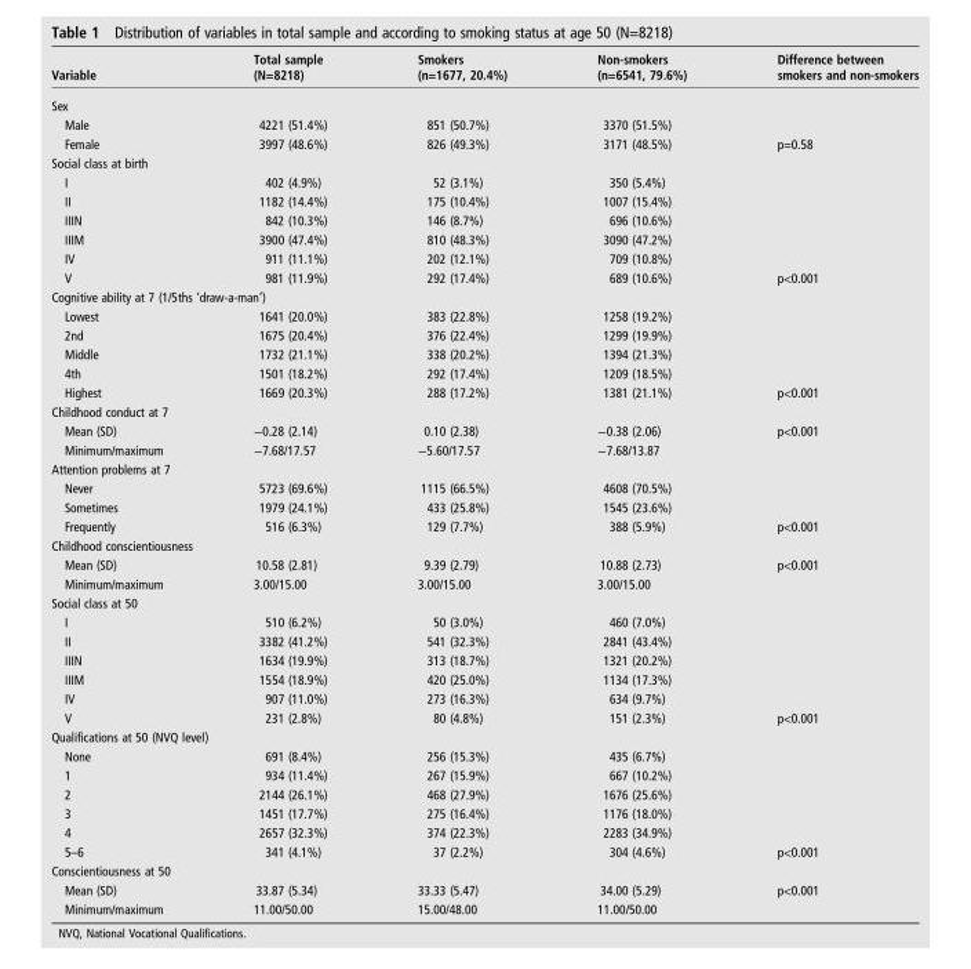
<table><thead><tr><td>Variable</td><td>Total sample (N=8218)</td><td>Smokers (n=1677, 20.4%)</td><td>Non-smokers (n=6541, 79.6%)</td><td>Difference between smokers and non-smokers</td></tr></thead><tbody><tr><td colspan="5">Sex</td></tr><tr><td>Male</td><td>4221 (51.4%)</td><td>851 (50.7%)</td><td>3370 (51.5%)</td><td></td></tr><tr><td>Female</td><td>3997 (48.6%)</td><td>826 (49.3%)</td><td>3171 (48.5%)</td><td>p=0.58</td></tr><tr><td colspan="5">Social class at birth</td></tr><tr><td>I</td><td>402 (4.9%)</td><td>52 (3.1%)</td><td>350 (5.4%)</td><td></td></tr><tr><td>II</td><td>1182 (14.4%)</td><td>175 (10.4%)</td><td>1007 (15.4%)</td><td></td></tr><tr><td>IIIN</td><td>842 (10.3%)</td><td>146 (8.7%)</td><td>696 (10.6%)</td><td></td></tr><tr><td>IIIM</td><td>3900 (47.4%)</td><td>810 (48.3%)</td><td>3090 (47.2%)</td><td></td></tr><tr><td>IV</td><td>911 (11.1%)</td><td>202 (12.1%)</td><td>709 (10.8%)</td><td></td></tr><tr><td>V</td><td>981 (11.9%)</td><td>292 (17.4%)</td><td>689 (10.6%)</td><td>p&lt;0.001</td></tr><tr><td colspan="5">Cognitive ability at 7 (1/5ths ‘draw-a-man’)</td></tr><tr><td>Lowest</td><td>1641 (20.0%)</td><td>383 (22.8%)</td><td>1258 (19.2%)</td><td></td></tr><tr><td>2nd</td><td>1675 (20.4%)</td><td>376 (22.4%)</td><td>1299 (19.9%)</td><td></td></tr><tr><td>Middle</td><td>1732 (21.1%)</td><td>338 (20.2%)</td><td>1394 (21.3%)</td><td></td></tr><tr><td>4th</td><td>1501 (18.2%)</td><td>292 (17.4%)</td><td>1209 (18.5%)</td><td></td></tr><tr><td>Highest</td><td>1669 (20.3%)</td><td>288 (17.2%)</td><td>1381 (21.1%)</td><td>p&lt;0.001</td></tr><tr><td colspan="5">Childhood conduct at 7</td></tr><tr><td>Mean (SD)</td><td>−0.28 (2.14)</td><td>0.10 (2.38)</td><td>−0.38 (2.06)</td><td>p&lt;0.001</td></tr><tr><td>Minimum/maximum</td><td>−7.68/17.57</td><td>−5.60/17.57</td><td>−7.68/13.87</td><td></td></tr><tr><td colspan="5">Attention problems at 7</td></tr><tr><td>Never</td><td>5723 (69.6%)</td><td>1115 (66.5%)</td><td>4608 (70.5%)</td><td></td></tr><tr><td>Sometimes</td><td>1979 (24.1%)</td><td>433 (25.8%)</td><td>1545 (23.6%)</td><td></td></tr><tr><td>Frequently</td><td>516 (6.3%)</td><td>129 (7.7%)</td><td>388 (5.9%)</td><td>p&lt;0.001</td></tr><tr><td colspan="5">Childhood conscientiousness</td></tr><tr><td>Mean (SD)</td><td>10.58 (2.81)</td><td>9.39 (2.79)</td><td>10.88 (2.73)</td><td>p&lt;0.001</td></tr><tr><td>Minimum/maximum</td><td>3.00/15.00</td><td>3.00/15.00</td><td>3.00/15.00</td><td></td></tr><tr><td colspan="5">Social class at 50</td></tr><tr><td>I</td><td>510 (6.2%)</td><td>50 (3.0%)</td><td>460 (7.0%)</td><td></td></tr><tr><td>II</td><td>3382 (41.2%)</td><td>541 (32.3%)</td><td>2841 (43.4%)</td><td></td></tr><tr><td>IIIN</td><td>1634 (19.9%)</td><td>313 (18.7%)</td><td>1321 (20.2%)</td><td></td></tr><tr><td>IIIM</td><td>1554 (18.9%)</td><td>420 (25.0%)</td><td>1134 (17.3%)</td><td></td></tr><tr><td>IV</td><td>907 (11.0%)</td><td>273 (16.3%)</td><td>634 (9.7%)</td><td></td></tr><tr><td>V</td><td>231 (2.8%)</td><td>80 (4.8%)</td><td>151 (2.3%)</td><td>p&lt;0.001</td></tr><tr><td colspan="5">Qualifications at 50 (NVQ level)</td></tr><tr><td>None</td><td>691 (8.4%)</td><td>256 (15.3%)</td><td>435 (6.7%)</td><td></td></tr><tr><td>1</td><td>934 (11.4%)</td><td>267 (15.9%)</td><td>667 (10.2%)</td><td></td></tr><tr><td>2</td><td>2144 (26.1%)</td><td>468 (27.9%)</td><td>1676 (25.6%)</td><td></td></tr><tr><td>3</td><td>1451 (17.7%)</td><td>275 (16.4%)</td><td>1176 (18.0%)</td><td></td></tr><tr><td>4</td><td>2657 (32.3%)</td><td>374 (22.3%)</td><td>2283 (34.9%)</td><td></td></tr><tr><td>5–6</td><td>341 (4.1%)</td><td>37 (2.2%)</td><td>304 (4.6%)</td><td>p&lt;0.001</td></tr><tr><td colspan="5">Conscientiousness at 50</td></tr><tr><td>Mean (SD)</td><td>33.87 (5.34)</td><td>33.33 (5.47)</td><td>34.00 (5.29)</td><td>p&lt;0.001</td></tr><tr><td>Minimum/maximum</td><td>11.00/50.00</td><td>15.00/48.00</td><td>11.00/50.00</td><td></td></tr></tbody></table>